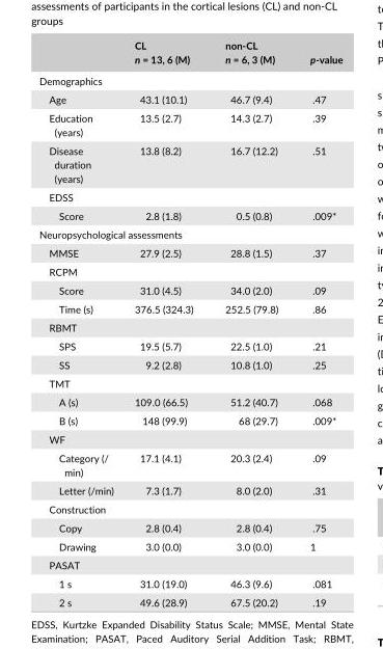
<table><thead><tr><td></td><td>CL n = 13, 6 (M)</td><td>non- CL n = 6, 3 (M)</td><td>p- value</td></tr></thead><tbody><tr><td colspan="4">Demographics</td></tr><tr><td>Age</td><td>43.1 (10.1)</td><td>46.7 (9.4)</td><td>.47</td></tr><tr><td>Education (years)</td><td>13.5 (2.7)</td><td>14.3 (2.7)</td><td>.39</td></tr><tr><td>Disease duration (years)</td><td>13.8 (8.2)</td><td>16.7 (12.2)</td><td>.51</td></tr><tr><td colspan="4">EDSS</td></tr><tr><td>Score</td><td>2.8 (1.8)</td><td>0.5 (0.8)</td><td>.009*</td></tr><tr><td colspan="4">Neuropsychological assessments</td></tr><tr><td>MMSE</td><td>27.9 (2.5)</td><td>28.8 (1.5)</td><td>.37</td></tr><tr><td colspan="4">RCPM</td></tr><tr><td>Score</td><td>31.0 (4.5)</td><td>34.0 (2.0)</td><td>.09</td></tr><tr><td>Time (s)</td><td>376.5 (324.3)</td><td>252.5 (79.8)</td><td>.86</td></tr><tr><td colspan="4">RBMT</td></tr><tr><td>SPS</td><td>19.5 (5.7)</td><td>22.5 (1.0)</td><td>.21</td></tr><tr><td>SS</td><td>9.2 (2.8)</td><td>10.8 (1.0)</td><td>.25</td></tr><tr><td colspan="4">TMT</td></tr><tr><td>A (s)</td><td>109.0 (66.5)</td><td>51.2 (40.7)</td><td>.068</td></tr><tr><td>B (s)</td><td>148 (99.9)</td><td>68 (29.7)</td><td>.009*</td></tr><tr><td colspan="4">WF</td></tr><tr><td>Category (/ min)</td><td>17.1 (4.1)</td><td>20.3 (2.4)</td><td>.09</td></tr><tr><td>Letter (/min)</td><td>7.3 (1.7)</td><td>8.0 (2.0)</td><td>.31</td></tr><tr><td colspan="4">Construction</td></tr><tr><td>Copy</td><td>2.8 (0.4)</td><td>2.8 (0.4)</td><td>.75</td></tr><tr><td>Drawing</td><td>3.0 (0.0)</td><td>3.0 (0.0)</td><td>1</td></tr><tr><td colspan="4">PASAT</td></tr><tr><td>1 s</td><td>31.0 (19.0)</td><td>46.3 (9.6)</td><td>.081</td></tr><tr><td>2 s</td><td>49.6 (28.9)</td><td>67.5 (20.2)</td><td>.19</td></tr></tbody></table>